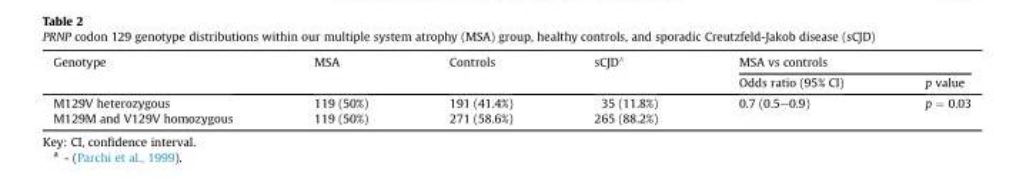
<table><thead><tr><td rowspan="2">Genotype</td><td rowspan="2">MSA</td><td rowspan="2">Controls</td><td rowspan="2">sCJD<sup>a</sup></td><td colspan="2">MSA vs controls</td></tr><tr><td>Odds ratio (95% CI)</td><td>p value</td></tr></thead><tbody><tr><td>M129V heterozygous</td><td>119 (50%)</td><td>191 (41.4%)</td><td>35 (11.8%)</td><td rowspan="2">0.7 (0.5–0.9)</td><td rowspan="2">p = 0.03</td></tr><tr><td>M129M and V129V homozygous</td><td>119 (50%)</td><td>271 (58.6%)</td><td>265 (88.2%)</td></tr></tbody></table>